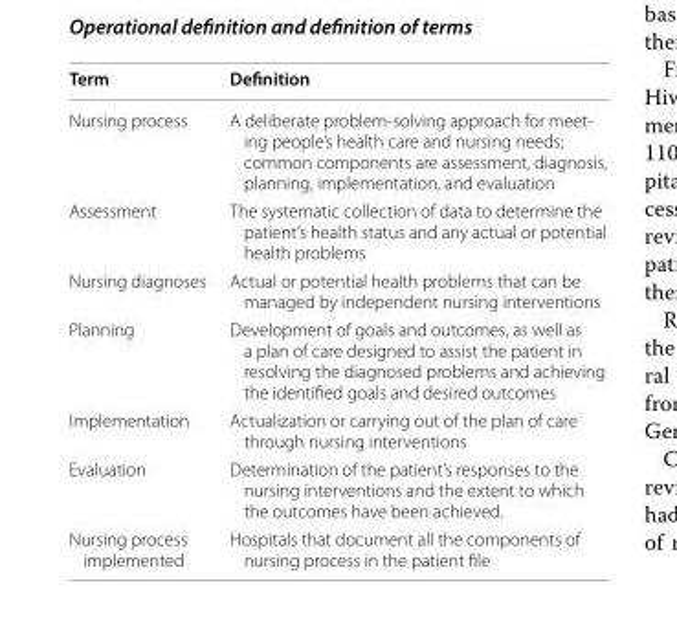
<table><thead><tr><td>Term</td><td>Definition</td></tr></thead><tbody><tr><td>Nursing process</td><td>A deliberate problem-solving approach for meet- ing people’s health care and nursing needs; common components are assessment, diagnosis, planning, implementation, and evaluation</td></tr><tr><td>Assessment</td><td>The systematic collection of data to determine the patient’s health status and any actual or potential health problems</td></tr><tr><td>Nursing diagnoses</td><td>Actual or potential health problems that can be managed by independent nursing interventions</td></tr><tr><td>Planning</td><td>Development of goals and outcomes, as well as a plan of care designed to assist the patient in resolving the diagnosed problems and achieving the identified goals and desired outcomes</td></tr><tr><td>Implementation</td><td>Actualization or carrying out of the plan of care through nursing interventions</td></tr><tr><td>Evaluation</td><td>Determination of the patient’s responses to the nursing interventions and the extent to which the outcomes have been achieved.</td></tr><tr><td>Nursing process implemented</td><td>Hospitals that document all the components of nursing process in the patient file</td></tr></tbody></table>